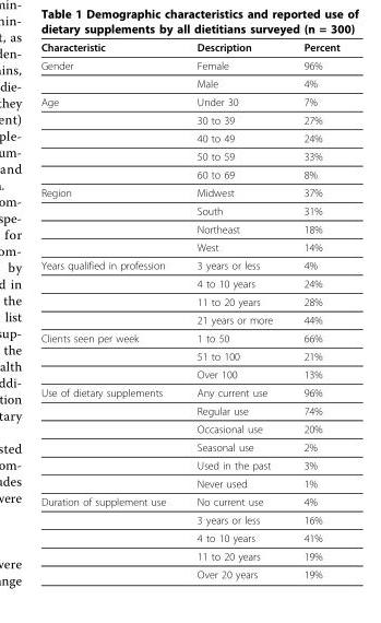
<table><thead><tr><td>Characteristic</td><td>Description</td><td>Percent</td></tr></thead><tbody><tr><td rowspan="2">Gender</td><td>Female</td><td>96%</td></tr><tr><td>Male</td><td>4%</td></tr><tr><td rowspan="5">Age</td><td>Under 30</td><td>7%</td></tr><tr><td>30 to 39</td><td>27%</td></tr><tr><td>40 to 49</td><td>24%</td></tr><tr><td>50 to 59</td><td>33%</td></tr><tr><td>60 to 69</td><td>8%</td></tr><tr><td rowspan="4">Region</td><td>Midwest</td><td>37%</td></tr><tr><td>South</td><td>31%</td></tr><tr><td>Northeast</td><td>18%</td></tr><tr><td>West</td><td>14%</td></tr><tr><td rowspan="4">Years qualified in profession</td><td>3 years or less</td><td>4%</td></tr><tr><td>4 to 10 years</td><td>24%</td></tr><tr><td>11 to 20 years</td><td>28%</td></tr><tr><td>21 years or more</td><td>44%</td></tr><tr><td rowspan="3">Clients seen per week</td><td>1 to 50</td><td>66%</td></tr><tr><td>51 to 100</td><td>21%</td></tr><tr><td>Over 100</td><td>13%</td></tr><tr><td rowspan="6">Use of dietary supplements</td><td>Any current use</td><td>96%</td></tr><tr><td>Regular use</td><td>74%</td></tr><tr><td>Occasional use</td><td>20%</td></tr><tr><td>Seasonal use</td><td>2%</td></tr><tr><td>Used in the past</td><td>3%</td></tr><tr><td>Never used</td><td>1%</td></tr><tr><td rowspan="5">Duration of supplement use</td><td>No current use</td><td>4%</td></tr><tr><td>3 years or less</td><td>16%</td></tr><tr><td>4 to 10 years</td><td>41%</td></tr><tr><td>11 to 20 years</td><td>19%</td></tr><tr><td>Over 20 years</td><td>19%</td></tr></tbody></table>